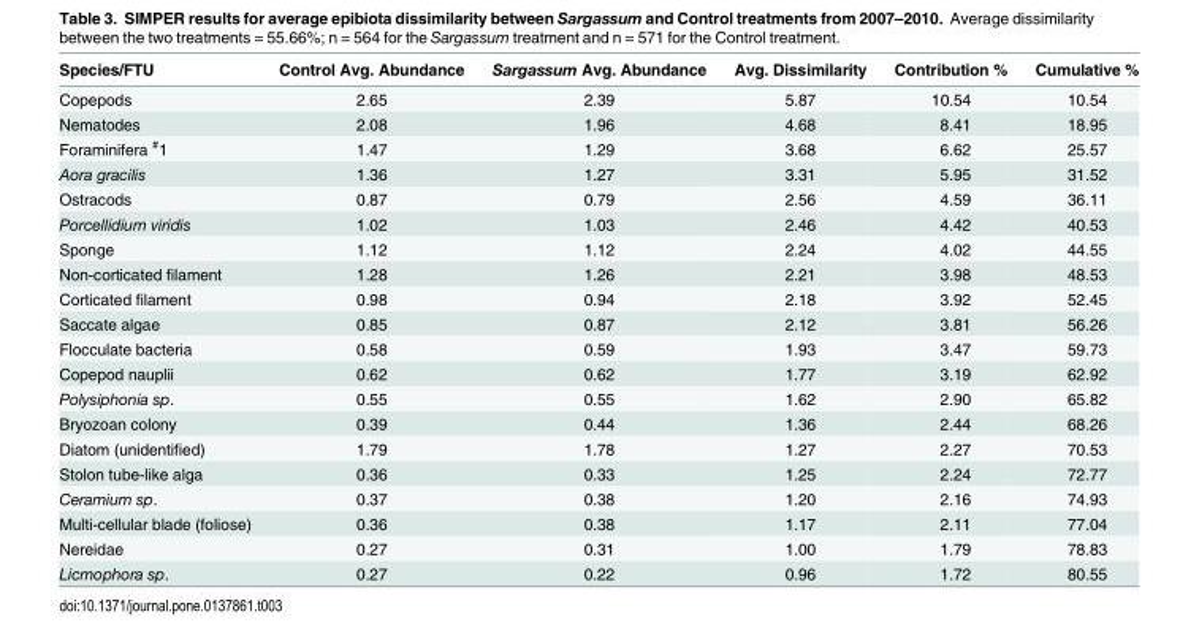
<table><thead><tr><td>Species/FTU</td><td>Control Avg. Abundance</td><td>Sargassum Avg. Abundance</td><td>Avg. Dissimilarity</td><td>Contribution %</td><td>Cumulative %</td></tr></thead><tbody><tr><td>Copepods</td><td>2.65</td><td>2.39</td><td>5.87</td><td>10.54</td><td>10.54</td></tr><tr><td>Nematodes</td><td>2.08</td><td>1.96</td><td>4.68</td><td>8.41</td><td>18.95</td></tr><tr><td>Foraminifera <sup>#</sup>1</td><td>1.47</td><td>1.29</td><td>3.68</td><td>6.62</td><td>25.57</td></tr><tr><td>Aora gracilis</td><td>1.36</td><td>1.27</td><td>3.31</td><td>5.95</td><td>31.52</td></tr><tr><td>Ostracods</td><td>0.87</td><td>0.79</td><td>2.56</td><td>4.59</td><td>36.11</td></tr><tr><td>Porcellidium viridis</td><td>1.02</td><td>1.03</td><td>2.46</td><td>4.42</td><td>40.53</td></tr><tr><td>Sponge</td><td>1.12</td><td>1.12</td><td>2.24</td><td>4.02</td><td>44.55</td></tr><tr><td>Non-corticated filament</td><td>1.28</td><td>1.26</td><td>2.21</td><td>3.98</td><td>48.53</td></tr><tr><td>Corticated filament</td><td>0.98</td><td>0.94</td><td>2.18</td><td>3.92</td><td>52.45</td></tr><tr><td>Saccate algae</td><td>0.85</td><td>0.87</td><td>2.12</td><td>3.81</td><td>56.26</td></tr><tr><td>Flocculate bacteria</td><td>0.58</td><td>0.59</td><td>1.93</td><td>3.47</td><td>59.73</td></tr><tr><td>Copepod nauplii</td><td>0.62</td><td>0.62</td><td>1.77</td><td>3.19</td><td>62.92</td></tr><tr><td>Polysiphonia sp.</td><td>0.55</td><td>0.55</td><td>1.62</td><td>2.90</td><td>65.82</td></tr><tr><td>Bryozoan colony</td><td>0.39</td><td>0.44</td><td>1.36</td><td>2.44</td><td>68.26</td></tr><tr><td>Diatom (unidentified)</td><td>1.79</td><td>1.78</td><td>1.27</td><td>2.27</td><td>70.53</td></tr><tr><td>Stolon tube-like alga</td><td>0.36</td><td>0.33</td><td>1.25</td><td>2.24</td><td>72.77</td></tr><tr><td>Ceramium sp.</td><td>0.37</td><td>0.38</td><td>1.20</td><td>2.16</td><td>74.93</td></tr><tr><td>Multi-cellular blade (foliose)</td><td>0.36</td><td>0.38</td><td>1.17</td><td>2.11</td><td>77.04</td></tr><tr><td>Nereidae</td><td>0.27</td><td>0.31</td><td>1.00</td><td>1.79</td><td>78.83</td></tr><tr><td>Licmophora sp.</td><td>0.27</td><td>0.22</td><td>0.96</td><td>1.72</td><td>80.55</td></tr></tbody></table>